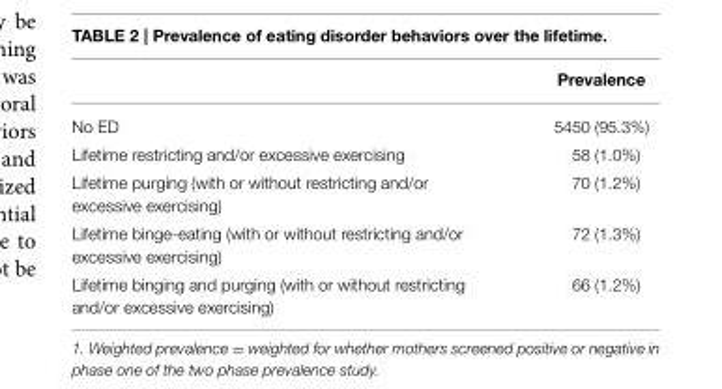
<table><thead><tr><td></td><td>Prevalence</td></tr></thead><tbody><tr><td>No ED</td><td>5450 (95.3%)</td></tr><tr><td>Lifetime restricting and/or excessive exercising</td><td>58 (1.0%)</td></tr><tr><td>Lifetime purging (with or without restricting and/or excessive exercising)</td><td>70 (1.2%)</td></tr><tr><td>Lifetime binge-eating (with or without restricting and/or excessive exercising)</td><td>72 (1.3%)</td></tr><tr><td>Lifetime binging and purging (with or without restricting and/or excessive exercising)</td><td>66 (1.2%)</td></tr></tbody></table>